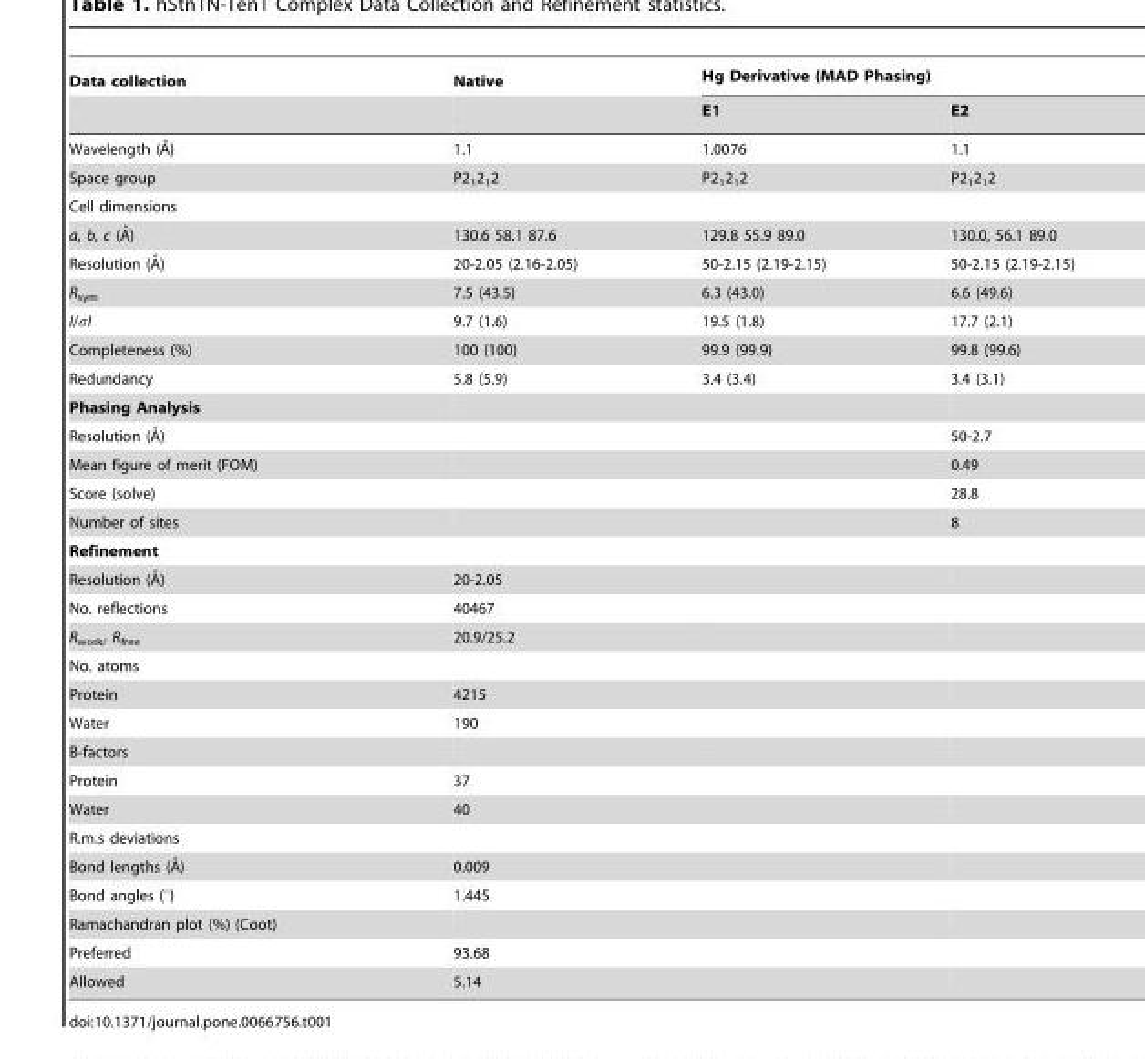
<table><thead><tr><td rowspan="2">Data collection</td><td rowspan="2">Native</td><td colspan="2">Hg Derivative (MAD Phasing)</td></tr><tr><td>E1</td><td>E2</td></tr></thead><tbody><tr><td>Wavelength (A˚)</td><td>1.1</td><td>1.0076</td><td>1.1</td></tr><tr><td>Space group</td><td>P2<sub>1</sub>2<sub>1</sub>2</td><td>P2<sub>1</sub>2<sub>1</sub>2</td><td>P2<sub>1</sub>2<sub>1</sub>2</td></tr><tr><td colspan="4">Cell dimensions</td></tr><tr><td>a, b, c (A˚)</td><td>130.6 58.1 87.6</td><td>129.8 55.9 89.0</td><td>130.0, 56.1 89.0</td></tr><tr><td>Resolution (A˚)</td><td>20-2.05 (2.16-2.05)</td><td>50-2.15 (2.19-2.15)</td><td>50-2.15 (2.19-2.15)</td></tr><tr><td>R<sub>sym</sub></td><td>7.5 (43.5)</td><td>6.3 (43.0)</td><td>6.6 (49.6)</td></tr><tr><td>I/sI</td><td>9.7 (1.6)</td><td>19.5 (1.8)</td><td>17.7 (2.1)</td></tr><tr><td>Completeness (%)</td><td>100 (100)</td><td>99.9 (99.9)</td><td>99.8 (99.6)</td></tr><tr><td>Redundancy</td><td>5.8 (5.9)</td><td>3.4 (3.4)</td><td>3.4 (3.1)</td></tr><tr><td colspan="4">Phasing Analysis</td></tr><tr><td>Resolution (A˚)</td><td></td><td></td><td>50-2.7</td></tr><tr><td>Mean figure of merit (FOM)</td><td></td><td></td><td>0.49</td></tr><tr><td>Score (solve)</td><td></td><td></td><td>28.8</td></tr><tr><td>Number of sites</td><td></td><td></td><td>8</td></tr><tr><td colspan="4">Refinement</td></tr><tr><td>Resolution (A˚)</td><td>20-2.05</td><td></td><td></td></tr><tr><td>No. reflections</td><td>40467</td><td></td><td></td></tr><tr><td>R<sub>work/</sub> R<sub>free</sub></td><td>20.9/25.2</td><td></td><td></td></tr><tr><td colspan="4">No. atoms</td></tr><tr><td>Protein</td><td>4215</td><td></td><td></td></tr><tr><td>Water</td><td>190</td><td></td><td></td></tr><tr><td colspan="4">B-factors</td></tr><tr><td>Protein</td><td>37</td><td></td><td></td></tr><tr><td>Water</td><td>40</td><td></td><td></td></tr><tr><td colspan="4">R.m.s deviations</td></tr><tr><td>Bond lengths (A˚)</td><td>0.009</td><td></td><td></td></tr><tr><td>Bond angles (°)</td><td>1.445</td><td></td><td></td></tr><tr><td colspan="4">Ramachandran plot (%) (Coot)</td></tr><tr><td>Preferred</td><td>93.68</td><td></td><td></td></tr><tr><td>Allowed</td><td>5.14</td><td></td><td></td></tr></tbody></table>